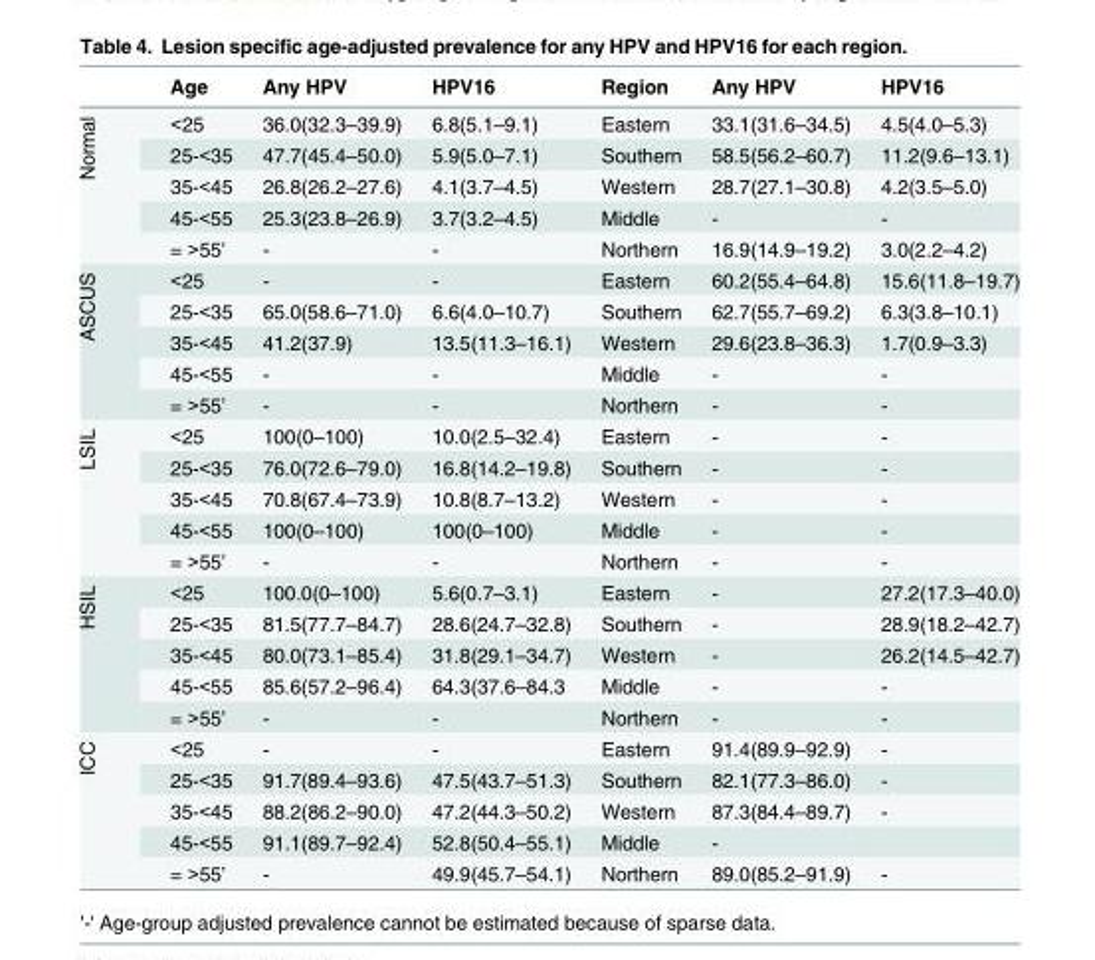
<table><thead><tr><td></td><td>Age</td><td>Any HPV</td><td>HPV16</td><td>Region</td><td>Any HPV</td><td>HPV16</td></tr></thead><tbody><tr><td rowspan="5">Normal</td><td>&lt;25</td><td>36.0(32.3–39.9)</td><td>6.8(5.1–9.1)</td><td>Eastern</td><td>33.1(31.6–34.5)</td><td>4.5(4.0–5.3)</td></tr><tr><td>25-&lt;35</td><td>47.7(45.4–50.0)</td><td>5.9(5.0–7.1)</td><td>Southern</td><td>58.5(56.2–60.7)</td><td>11.2(9.6–13.1)</td></tr><tr><td>35-&lt;45</td><td>26.8(26.2–27.6)</td><td>4.1(3.7–4.5)</td><td>Western</td><td>28.7(27.1–30.8)</td><td>4.2(3.5–5.0)</td></tr><tr><td>45-&lt;55</td><td>25.3(23.8–26.9)</td><td>3.7(3.2–4.5)</td><td>Middle</td><td>-</td><td>-</td></tr><tr><td>= &gt;55’</td><td>-</td><td>-</td><td>Northern</td><td>16.9(14.9–19.2)</td><td>3.0(2.2–4.2)</td></tr><tr><td rowspan="5">ASCUS</td><td>&lt;25</td><td>-</td><td>-</td><td>Eastern</td><td>60.2(55.4–64.8)</td><td>15.6(11.8–19.7)</td></tr><tr><td>25-&lt;35</td><td>65.0(58.6–71.0)</td><td>6.6(4.0–10.7)</td><td>Southern</td><td>62.7(55.7–69.2)</td><td>6.3(3.8–10.1)</td></tr><tr><td>35-&lt;45</td><td>41.2(37.9)</td><td>13.5(11.3–16.1)</td><td>Western</td><td>29.6(23.8–36.3)</td><td>1.7(0.9–3.3)</td></tr><tr><td>45-&lt;55</td><td>-</td><td>-</td><td>Middle</td><td>-</td><td>-</td></tr><tr><td>= &gt;55’</td><td>-</td><td>-</td><td>Northern</td><td>-</td><td>-</td></tr><tr><td rowspan="5">LSIL</td><td>&lt;25</td><td>100(0–100)</td><td>10.0(2.5–32.4)</td><td>Eastern</td><td>-</td><td>-</td></tr><tr><td>25-&lt;35</td><td>76.0(72.6–79.0)</td><td>16.8(14.2–19.8)</td><td>Southern</td><td>-</td><td>-</td></tr><tr><td>35-&lt;45</td><td>70.8(67.4–73.9)</td><td>10.8(8.7–13.2)</td><td>Western</td><td>-</td><td>-</td></tr><tr><td>45-&lt;55</td><td>100(0–100)</td><td>100(0–100)</td><td>Middle</td><td>-</td><td>-</td></tr><tr><td>= &gt;55’</td><td>-</td><td>-</td><td>Northern</td><td>-</td><td>-</td></tr><tr><td rowspan="5">HSIL</td><td>&lt;25</td><td>100.0(0–100)</td><td>5.6(0.7–3.1)</td><td>Eastern</td><td>-</td><td>27.2(17.3–40.0)</td></tr><tr><td>25-&lt;35</td><td>81.5(77.7–84.7)</td><td>28.6(24.7–32.8)</td><td>Southern</td><td>-</td><td>28.9(18.2–42.7)</td></tr><tr><td>35-&lt;45</td><td>80.0(73.1–85.4)</td><td>31.8(29.1–34.7)</td><td>Western</td><td>-</td><td>26.2(14.5–42.7)</td></tr><tr><td>45-&lt;55</td><td>85.6(57.2–96.4)</td><td>64.3(37.6–84.3</td><td>Middle</td><td>-</td><td>-</td></tr><tr><td>= &gt;55’</td><td>-</td><td>-</td><td>Northern</td><td>-</td><td>-</td></tr><tr><td rowspan="5">ICC</td><td>&lt;25</td><td>-</td><td>-</td><td>Eastern</td><td>91.4(89.9–92.9)</td><td>-</td></tr><tr><td>25-&lt;35</td><td>91.7(89.4–93.6)</td><td>47.5(43.7–51.3)</td><td>Southern</td><td>82.1(77.3–86.0)</td><td>-</td></tr><tr><td>35-&lt;45</td><td>88.2(86.2–90.0)</td><td>47.2(44.3–50.2)</td><td>Western</td><td>87.3(84.4–89.7)</td><td>-</td></tr><tr><td>45-&lt;55</td><td>91.1(89.7–92.4)</td><td>52.8(50.4–55.1)</td><td>Middle</td><td>-</td><td></td></tr><tr><td>= &gt;55’</td><td>-</td><td>49.9(45.7–54.1)</td><td>Northern</td><td>89.0(85.2–91.9)</td><td>-</td></tr></tbody></table>